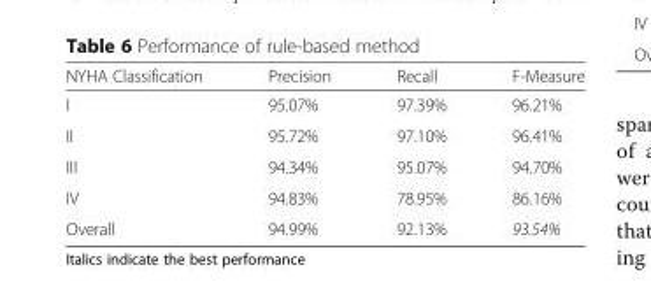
<table><thead><tr><td>NYHA Classification</td><td>Precision</td><td>Recall</td><td>F-Measure</td></tr></thead><tbody><tr><td>I</td><td>95.07%</td><td>97.39%</td><td>96.21%</td></tr><tr><td>II</td><td>95.72%</td><td>97.10%</td><td>96.41%</td></tr><tr><td>III</td><td>94.34%</td><td>95.07%</td><td>94.70%</td></tr><tr><td>IV</td><td>94.83%</td><td>78.95%</td><td>86.16%</td></tr><tr><td>Overall</td><td>94.99%</td><td>92.13%</td><td>93.54%</td></tr></tbody></table>